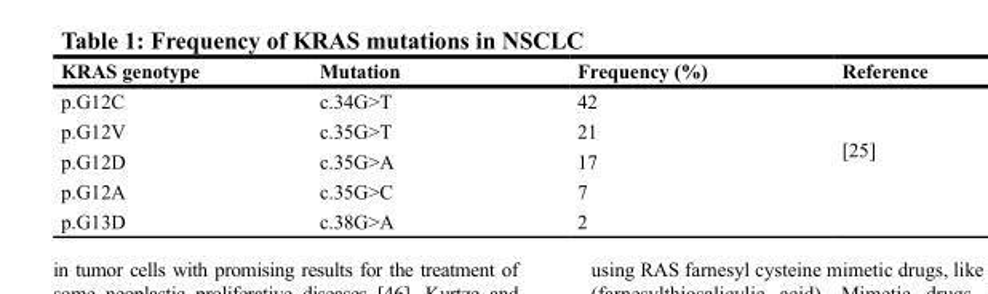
<table><thead><tr><td>KRAS genotype</td><td>Mutation</td><td>Frequency (%)</td><td>Reference</td></tr></thead><tbody><tr><td>p.G12C</td><td>c.34G&gt;T</td><td>42</td><td rowspan="5">[25]</td></tr><tr><td>p.G12V</td><td>c.35G&gt;T</td><td>21</td></tr><tr><td>p.G12D</td><td>c.35G&gt;A</td><td>17</td></tr><tr><td>p.G12A</td><td>c.35G&gt;C</td><td>7</td></tr><tr><td>p.G13D</td><td>c.38G&gt;A</td><td>2</td></tr></tbody></table>